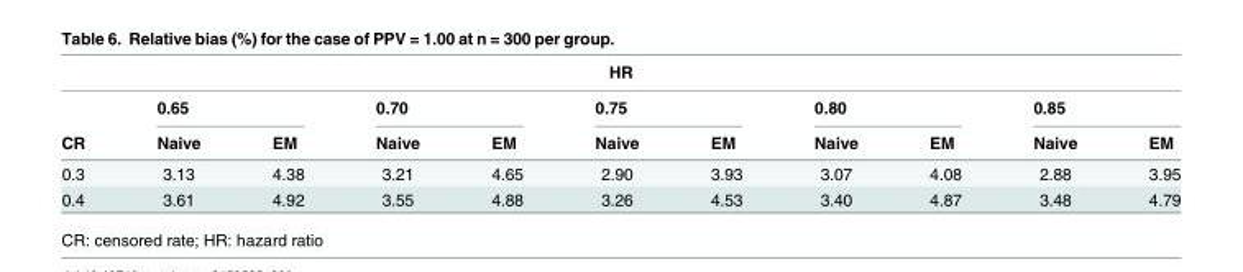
<table><thead><tr><td colspan="11">HR</td></tr><tr><td rowspan="2">CR</td><td colspan="2">0.65</td><td colspan="2">0.70</td><td colspan="2">0.75</td><td colspan="2">0.80</td><td colspan="2">0.85</td></tr><tr><td>Naive</td><td>EM</td><td>Naive</td><td>EM</td><td>Naive</td><td>EM</td><td>Naive</td><td>EM</td><td>Naive</td><td>EM</td></tr></thead><tbody><tr><td>0.3</td><td>3.13</td><td>4.38</td><td>3.21</td><td>4.65</td><td>2.90</td><td>3.93</td><td>3.07</td><td>4.08</td><td>2.88</td><td>3.95</td></tr><tr><td>0.4</td><td>3.61</td><td>4.92</td><td>3.55</td><td>4.88</td><td>3.26</td><td>4.53</td><td>3.40</td><td>4.87</td><td>3.48</td><td>4.79</td></tr></tbody></table>